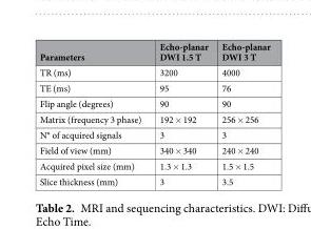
<table><thead><tr><td>Parameters</td><td>Echo-planar DWI 1.5 T</td><td>Echo-planar DWI 3 T</td></tr></thead><tbody><tr><td>TR (ms)</td><td>3200</td><td>4000</td></tr><tr><td>TE (ms)</td><td>95</td><td>76</td></tr><tr><td>Flip angle (degrees)</td><td>90</td><td>90</td></tr><tr><td>Matrix (frequency 3 phase)</td><td>192 × 192</td><td>256 × 256</td></tr><tr><td>N° of acquired signals</td><td>3</td><td>3</td></tr><tr><td>Field of view (mm)</td><td>340 × 340</td><td>240 × 240</td></tr><tr><td>Acquired pixel size (mm)</td><td>1.3 × 1.3</td><td>1.5 × 1.5</td></tr><tr><td>Slice thickness (mm)</td><td>3</td><td>3.5</td></tr></tbody></table>